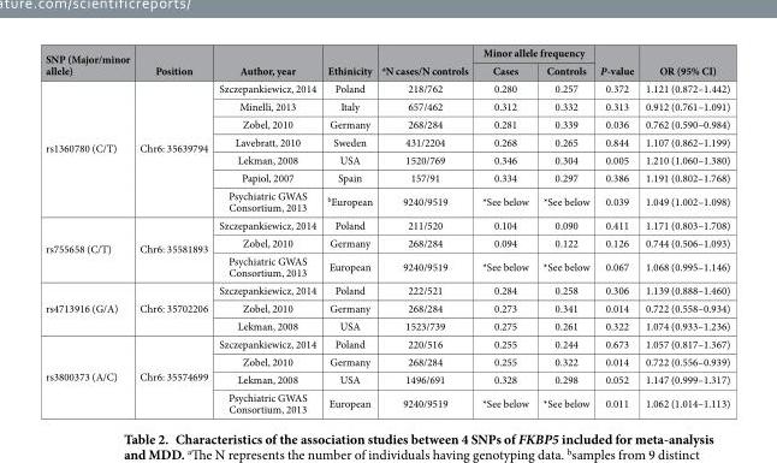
<table><thead><tr><td rowspan="2">SNP (Major/minor allele)</td><td rowspan="2">Position</td><td rowspan="2">Author, year</td><td rowspan="2">Ethinicity</td><td rowspan="2">aN cases/N controls</td><td colspan="2">Minor allele frequency</td><td rowspan="2">P-value</td><td rowspan="2">OR (95% CI)</td></tr><tr><td>Cases</td><td>Controls</td></tr></thead><tbody><tr><td rowspan="7">rs1360780 (C/T)</td><td rowspan="7">Chr6: 35639794</td><td>Szczepankiewicz, 2014</td><td>Poland</td><td>218/762</td><td>0.280</td><td>0.257</td><td>0.372</td><td>1.121 (0.872–1.442)</td></tr><tr><td>Minelli, 2013</td><td>Italy</td><td>657/462</td><td>0.312</td><td>0.332</td><td>0.313</td><td>0.912 (0.761–1.091)</td></tr><tr><td>Zobel, 2010</td><td>Germany</td><td>268/284</td><td>0.281</td><td>0.339</td><td>0.036</td><td>0.762 (0.590–0.984)</td></tr><tr><td>Lavebratt, 2010</td><td>Sweden</td><td>431/2204</td><td>0.268</td><td>0.265</td><td>0.844</td><td>1.107 (0.862–1.199)</td></tr><tr><td>Lekman, 2008</td><td>USA</td><td>1520/769</td><td>0.346</td><td>0.304</td><td>0.005</td><td>1.210 (1.060–1.380)</td></tr><tr><td>Papiol, 2007</td><td>Spain</td><td>157/91</td><td>0.334</td><td>0.297</td><td>0.386</td><td>1.191 (0.802–1.768)</td></tr><tr><td>Psychiatric GWAS Consortium, 2013</td><td>bEuropean</td><td>9240/9519</td><td>*See below</td><td>*See below</td><td>0.039</td><td>1.049 (1.002–1.098)</td></tr><tr><td rowspan="3">rs755658 (C/T)</td><td rowspan="3">Chr6: 35581893</td><td>Szczepankiewicz, 2014</td><td>Poland</td><td>211/520</td><td>0.104</td><td>0.090</td><td>0.411</td><td>1.171 (0.803–1.708)</td></tr><tr><td>Zobel, 2010</td><td>Germany</td><td>268/284</td><td>0.094</td><td>0.122</td><td>0.126</td><td>0.744 (0.506–1.093)</td></tr><tr><td>Psychiatric GWAS Consortium, 2013</td><td>European</td><td>9240/9519</td><td>*See below</td><td>*See below</td><td>0.067</td><td>1.068 (0.995–1.146)</td></tr><tr><td rowspan="3">rs4713916 (G/A)</td><td rowspan="3">Chr6: 35702206</td><td>Szczepankiewicz, 2014</td><td>Poland</td><td>222/521</td><td>0.284</td><td>0.258</td><td>0.306</td><td>1.139 (0.888–1.460)</td></tr><tr><td>Zobel, 2010</td><td>Germany</td><td>268/284</td><td>0.273</td><td>0.341</td><td>0.014</td><td>0.722 (0.558–0.934)</td></tr><tr><td>Lekman, 2008</td><td>USA</td><td>1523/739</td><td>0.275</td><td>0.261</td><td>0.322</td><td>1.074 (0.933–1.236)</td></tr><tr><td rowspan="4">rs3800373 (A/C)</td><td rowspan="4">Chr6: 35574699</td><td>Szczepankiewicz, 2014</td><td>Poland</td><td>220/516</td><td>0.255</td><td>0.244</td><td>0.673</td><td>1.057 (0.817–1.367)</td></tr><tr><td>Zobel, 2010</td><td>Germany</td><td>268/284</td><td>0.255</td><td>0.322</td><td>0.014</td><td>0.722 (0.556–0.939)</td></tr><tr><td>Lekman, 2008</td><td>USA</td><td>1496/691</td><td>0.328</td><td>0.298</td><td>0.052</td><td>1.147 (0.999–1.317)</td></tr><tr><td>Psychiatric GWAS Consortium, 2013</td><td>European</td><td>9240/9519</td><td>*See below</td><td>*See below</td><td>0.011</td><td>1.062 (1.014–1.113)</td></tr></tbody></table>